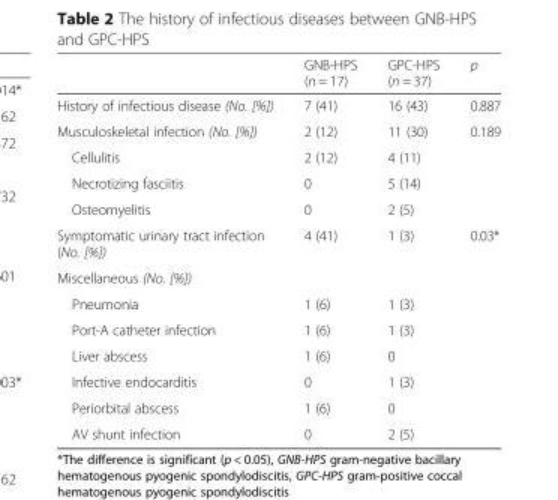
<table><thead><tr><td></td><td>GNB-HPS (n = 17)</td><td>GPC-HPS (n = 37)</td><td>p</td></tr></thead><tbody><tr><td>History of infectious disease (No. [%])</td><td>7 (41)</td><td>16 (43)</td><td>0.887</td></tr><tr><td>Musculoskeletal infection (No. [%])</td><td>2 (12)</td><td>11 (30)</td><td>0.189</td></tr><tr><td>Cellulitis</td><td>2 (12)</td><td>4 (11)</td><td></td></tr><tr><td>Necrotizing fasciitis</td><td>0</td><td>5 (14)</td><td></td></tr><tr><td>Osteomyelitis</td><td>0</td><td>2 (5)</td><td></td></tr><tr><td>Symptomatic urinary tract infection (No. [%])</td><td>4 (41)</td><td>1 (3)</td><td>0.03*</td></tr><tr><td colspan="4">Miscellaneous (No. [%])</td></tr><tr><td>Pneumonia</td><td>1 (6)</td><td>1 (3)</td><td></td></tr><tr><td>Port-A catheter infection</td><td>1 (6)</td><td>1 (3)</td><td></td></tr><tr><td>Liver abscess</td><td>1 (6)</td><td>0</td><td></td></tr><tr><td>Infective endocarditis</td><td>0</td><td>1 (3)</td><td></td></tr><tr><td>Periorbital abscess</td><td>1 (6)</td><td>0</td><td></td></tr><tr><td>AV shunt infection</td><td>0</td><td>2 (5)</td><td></td></tr></tbody></table>